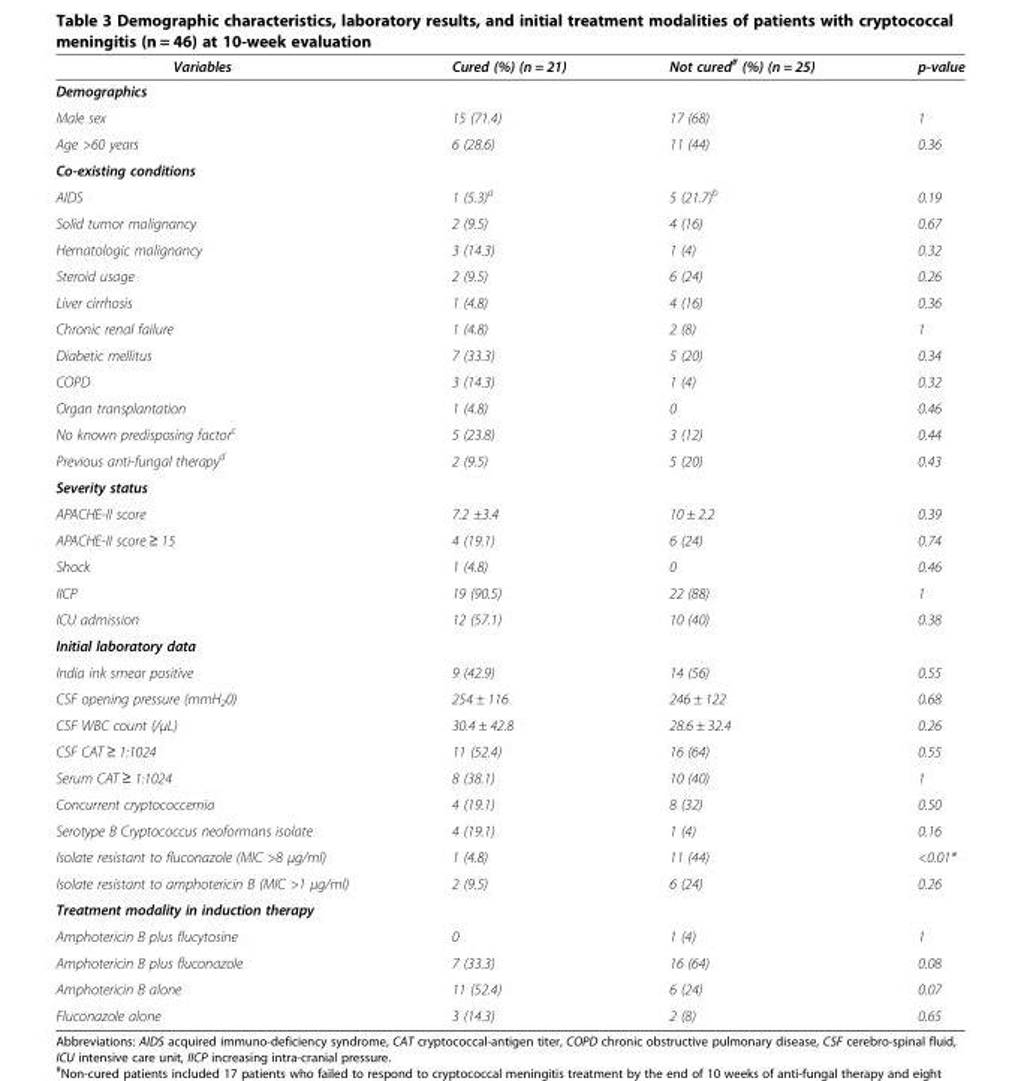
<table><thead><tr><td>Variables</td><td>Cured (%) (n = 21)</td><td>Not cured<sup>#</sup> (%) (n = 25)</td><td>p-value</td></tr></thead><tbody><tr><td colspan="4">Demographics</td></tr><tr><td>Male sex</td><td>15 (71.4)</td><td>17 (68)</td><td>1</td></tr><tr><td>Age &gt;60 years</td><td>6 (28.6)</td><td>11 (44)</td><td>0.36</td></tr><tr><td colspan="4">Co-existing conditions</td></tr><tr><td>AIDS</td><td>1 (5.3)<sup>a</sup></td><td>5 (21.7)<sup>b</sup></td><td>0.19</td></tr><tr><td>Solid tumor malignancy</td><td>2 (9.5)</td><td>4 (16)</td><td>0.67</td></tr><tr><td>Hematologic malignancy</td><td>3 (14.3)</td><td>1 (4)</td><td>0.32</td></tr><tr><td>Steroid usage</td><td>2 (9.5)</td><td>6 (24)</td><td>0.26</td></tr><tr><td>Liver cirrhosis</td><td>1 (4.8)</td><td>4 (16)</td><td>0.36</td></tr><tr><td>Chronic renal failure</td><td>1 (4.8)</td><td>2 (8)</td><td>1</td></tr><tr><td>Diabetic mellitus</td><td>7 (33.3)</td><td>5 (20)</td><td>0.34</td></tr><tr><td>COPD</td><td>3 (14.3)</td><td>1 (4)</td><td>0.32</td></tr><tr><td>Organ transplantation</td><td>1 (4.8)</td><td>0</td><td>0.46</td></tr><tr><td>No known predisposing factor<sup>c</sup></td><td>5 (23.8)</td><td>3 (12)</td><td>0.44</td></tr><tr><td>Previous anti-fungal therapy<sup>d</sup></td><td>2 (9.5)</td><td>5 (20)</td><td>0.43</td></tr><tr><td colspan="4">Severity status</td></tr><tr><td>APACHE-II score</td><td>7.2 ±3.4</td><td>10 ± 2.2</td><td>0.39</td></tr><tr><td>APACHE-II score ≥ 15</td><td>4 (19.1)</td><td>6 (24)</td><td>0.74</td></tr><tr><td>Shock</td><td>1 (4.8)</td><td>0</td><td>0.46</td></tr><tr><td>IICP</td><td>19 (90.5)</td><td>22 (88)</td><td>1</td></tr><tr><td>ICU admission</td><td>12 (57.1)</td><td>10 (40)</td><td>0.38</td></tr><tr><td colspan="4">Initial laboratory data</td></tr><tr><td>India ink smear positive</td><td>9 (42.9)</td><td>14 (56)</td><td>0.55</td></tr><tr><td>CSF opening pressure (mmH<sub>2</sub>0)</td><td>254 ± 116</td><td>246 ± 122</td><td>0.68</td></tr><tr><td>CSF WBC count (/μL)</td><td>30.4 ± 42.8</td><td>28.6 ± 32.4</td><td>0.26</td></tr><tr><td>CSF CAT ≥ 1:1024</td><td>11 (52.4)</td><td>16 (64)</td><td>0.55</td></tr><tr><td>Serum CAT ≥ 1:1024</td><td>8 (38.1)</td><td>10 (40)</td><td>1</td></tr><tr><td>Concurrent cryptococcemia</td><td>4 (19.1)</td><td>8 (32)</td><td>0.50</td></tr><tr><td>Serotype B Cryptococcus neoformans isolate</td><td>4 (19.1)</td><td>1 (4)</td><td>0.16</td></tr><tr><td>Isolate resistant to fluconazole (MIC &gt;8 μg/ml)</td><td>1 (4.8)</td><td>11 (44)</td><td>&lt;0.01*</td></tr><tr><td>Isolate resistant to amphotericin B (MIC &gt;1 μg/ml)</td><td>2 (9.5)</td><td>6 (24)</td><td>0.26</td></tr><tr><td colspan="4">Treatment modality in induction therapy</td></tr><tr><td>Amphotericin B plus flucytosine</td><td>0</td><td>1 (4)</td><td>1</td></tr><tr><td>Amphotericin B plus fluconazole</td><td>7 (33.3)</td><td>16 (64)</td><td>0.08</td></tr><tr><td>Amphotericin B alone</td><td>11 (52.4)</td><td>6 (24)</td><td>0.07</td></tr><tr><td>Fluconazole alone</td><td>3 (14.3)</td><td>2 (8)</td><td>0.65</td></tr></tbody></table>